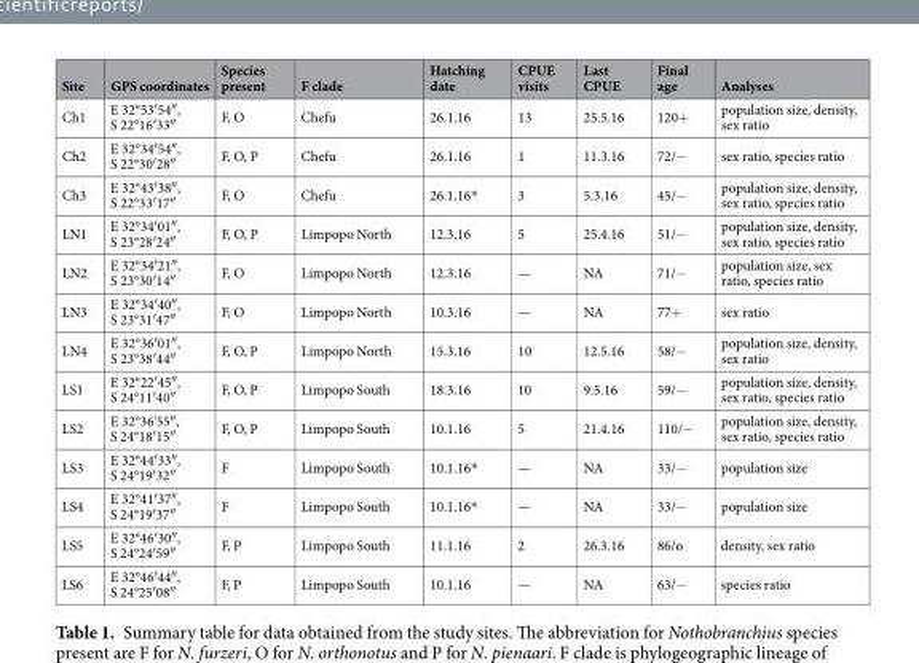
<table><thead><tr><td>Site</td><td>GPS coordinates</td><td>Species present</td><td>F clade</td><td>Hatching date</td><td>CPUE visits</td><td>Last CPUE</td><td>Final age</td><td>Analyses</td></tr></thead><tbody><tr><td>Ch1</td><td>E 32°53′54″, S 22°16′33″</td><td>F, O</td><td>Chefu</td><td>26.1.16</td><td>13</td><td>25.5.16</td><td>120+</td><td>population size, density, sex ratio</td></tr><tr><td>Ch2</td><td>E 32°34′54″, S 22°30′28″</td><td>F, O, P</td><td>Chefu</td><td>26.1.16</td><td>1</td><td>11.3.16</td><td>72/−</td><td>sex ratio, species ratio</td></tr><tr><td>Ch3</td><td>E 32°43′38″, S 22°33′17″</td><td>F, O</td><td>Chefu</td><td>26.1.16*</td><td>3</td><td>5.3.16</td><td>45/−</td><td>population size, density, sex ratio, species ratio</td></tr><tr><td>LN1</td><td>E 32°34′01″, S 23°28′24″</td><td>F, O, P</td><td>Limpopo North</td><td>12.3.16</td><td>5</td><td>25.4.16</td><td>51/−</td><td>population size, density, sex ratio, species ratio</td></tr><tr><td>LN2</td><td>E 32°34′21″, S 23°30′14″</td><td>F, O</td><td>Limpopo North</td><td>12.3.16</td><td>—</td><td>NA</td><td>71/−</td><td>population size, sex ratio, species ratio</td></tr><tr><td>LN3</td><td>E 32°34′40″, S 23°31′47″</td><td>F, O</td><td>Limpopo North</td><td>10.3.16</td><td>—</td><td>NA</td><td>77+</td><td>sex ratio</td></tr><tr><td>LN4</td><td>E 32°36′01″, S 23°38′44″</td><td>F, O, P</td><td>Limpopo North</td><td>15.3.16</td><td>10</td><td>12.5.16</td><td>58/−</td><td>population size, density, sex ratio</td></tr><tr><td>LS1</td><td>E 32°22′45″, S 24°11′40″</td><td>F, O, P</td><td>Limpopo South</td><td>18.3.16</td><td>10</td><td>9.5.16</td><td>59/−</td><td>population size, density, sex ratio, species ratio</td></tr><tr><td>LS2</td><td>E 32°36&#x27;55″, S 24°18′15″</td><td>F, O, P</td><td>Limpopo South</td><td>10.1.16</td><td>5</td><td>21.4.16</td><td>110/−</td><td>population size, density, sex ratio, species ratio</td></tr><tr><td>LS3</td><td>E 32°44′33″, S 24°19′32″</td><td>F</td><td>Limpopo South</td><td>10.1.16*</td><td>—</td><td>NA</td><td>33/−</td><td>population size</td></tr><tr><td>LS4</td><td>E 32°41′37″, S 24°19′37″</td><td>F</td><td>Limpopo South</td><td>10.1.16*</td><td>—</td><td>NA</td><td>33/−</td><td>population size</td></tr><tr><td>LS5</td><td>E 32°46′30″, S 24°24′59″</td><td>F, P</td><td>Limpopo South</td><td>11.1.16</td><td>2</td><td>26.3.16</td><td>86/o</td><td>density, sex ratio</td></tr><tr><td>LS6</td><td>E 32°46′44″, S 24°25′08″</td><td>F, P</td><td>Limpopo South</td><td>10.1.16</td><td>—</td><td>NA</td><td>63/−</td><td>species ratio</td></tr></tbody></table>